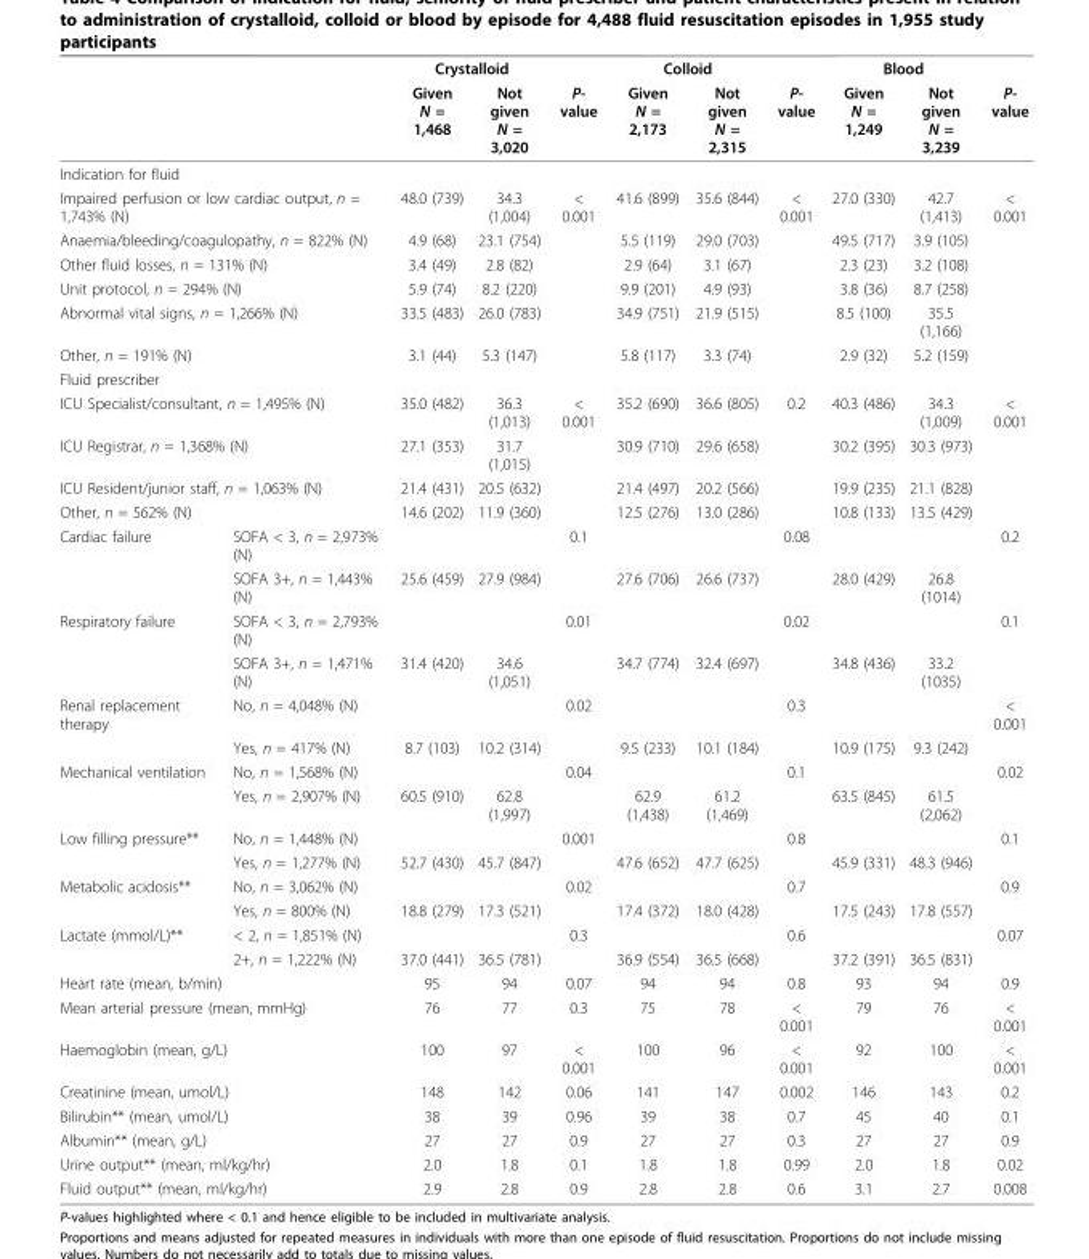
<table><thead><tr><td rowspan="2"></td><td rowspan="2"></td><td colspan="2">Crystalloid</td><td rowspan="2">P- value</td><td colspan="2">Colloid</td><td rowspan="2">P- value</td><td colspan="2">Blood</td><td rowspan="2">P- value</td></tr><tr><td>Given N = 1,468</td><td>Not given N = 3,020</td><td>Given N = 2,173</td><td>Not given N = 2,315</td><td>Given N = 1,249</td><td>Not given N = 3,239</td></tr></thead><tbody><tr><td colspan="11">Indication for fluid</td></tr><tr><td colspan="2">Impaired perfusion or low cardiac output, n = 1,743% (N)</td><td>48.0 (739)</td><td>34.3 (1,004)</td><td>&lt; 0.001</td><td>41.6 (899)</td><td>35.6 (844)</td><td>&lt; 0.001</td><td>27.0 (330)</td><td>42.7 (1,413)</td><td>&lt; 0.001</td></tr><tr><td colspan="2">Anaemia/bleeding/coagulopathy, n = 822% (N)</td><td>4.9 (68)</td><td>23.1 (754)</td><td></td><td>5.5 (119)</td><td>29.0 (703)</td><td></td><td>49.5 (717)</td><td>3.9 (105)</td><td></td></tr><tr><td colspan="2">Other fluid losses, n = 131% (N)</td><td>3.4 (49)</td><td>2.8 (82)</td><td></td><td>2.9 (64)</td><td>3.1 (67)</td><td></td><td>2.3 (23)</td><td>3.2 (108)</td><td></td></tr><tr><td colspan="2">Unit protocol, n = 294% (N)</td><td>5.9 (74)</td><td>8.2 (220)</td><td></td><td>9.9 (201)</td><td>4.9 (93)</td><td></td><td>3.8 (36)</td><td>8.7 (258)</td><td></td></tr><tr><td colspan="2">Abnormal vital signs, n = 1,266% (N)</td><td>33.5 (483)</td><td>26.0 (783)</td><td></td><td>34.9 (751)</td><td>21.9 (515)</td><td></td><td>8.5 (100)</td><td>35.5 (1,166)</td><td></td></tr><tr><td colspan="2">Other, n = 191% (N)</td><td>3.1 (44)</td><td>5.3 (147)</td><td></td><td>5.8 (117)</td><td>3.3 (74)</td><td></td><td>2.9 (32)</td><td>5.2 (159)</td><td></td></tr><tr><td colspan="11">Fluid prescriber</td></tr><tr><td colspan="2">ICU Specialist/consultant, n = 1,495% (N)</td><td>35.0 (482)</td><td>36.3 (1,013)</td><td>&lt; 0.001</td><td>35.2 (690)</td><td>36.6 (805)</td><td>0.2</td><td>40.3 (486)</td><td>34.3 (1,009)</td><td>&lt; 0.001</td></tr><tr><td colspan="2">ICU Registrar, n = 1,368% (N)</td><td>27.1 (353)</td><td>31.7 (1,015)</td><td></td><td>30.9 (710)</td><td>29.6 (658)</td><td></td><td>30.2 (395)</td><td>30.3 (973)</td><td></td></tr><tr><td colspan="2">ICU Resident/junior staff, n = 1,063% (N)</td><td>21.4 (431)</td><td>20.5 (632)</td><td></td><td>21.4 (497)</td><td>20.2 (566)</td><td></td><td>19.9 (235)</td><td>21.1 (828)</td><td></td></tr><tr><td colspan="2">Other, n = 562% (N)</td><td>14.6 (202)</td><td>11.9 (360)</td><td></td><td>12.5 (276)</td><td>13.0 (286)</td><td></td><td>10.8 (133)</td><td>13.5 (429)</td><td></td></tr><tr><td rowspan="2">Cardiac failure</td><td>SOFA &lt; 3, n = 2,973% (N)</td><td></td><td></td><td>0.1</td><td></td><td></td><td>0.08</td><td></td><td></td><td>0.2</td></tr><tr><td>SOFA 3+, n = 1,443% (N)</td><td>25.6 (459)</td><td>27.9 (984)</td><td></td><td>27.6 (706)</td><td>26.6 (737)</td><td></td><td>28.0 (429)</td><td>26.8 (1014)</td><td></td></tr><tr><td rowspan="2">Respiratory failure</td><td>SOFA &lt; 3, n = 2,793% (N)</td><td></td><td></td><td>0.01</td><td></td><td></td><td>0.02</td><td></td><td></td><td>0.1</td></tr><tr><td>SOFA 3+, n = 1,471% (N)</td><td>31.4 (420)</td><td>34.6 (1,051)</td><td></td><td>34.7 (774)</td><td>32.4 (697)</td><td></td><td>34.8 (436)</td><td>33.2 (1035)</td><td></td></tr><tr><td rowspan="2">Renal replacement therapy</td><td>No, n = 4,048% (N)</td><td></td><td></td><td>0.02</td><td></td><td></td><td>0.3</td><td></td><td></td><td>&lt; 0.001</td></tr><tr><td>Yes, n = 417% (N)</td><td>8.7 (103)</td><td>10.2 (314)</td><td></td><td>9.5 (233)</td><td>10.1 (184)</td><td></td><td>10.9 (175)</td><td>9.3 (242)</td><td></td></tr><tr><td rowspan="2">Mechanical ventilation</td><td>No, n = 1,568% (N)</td><td></td><td></td><td>0.04</td><td></td><td></td><td>0.1</td><td></td><td></td><td>0.02</td></tr><tr><td>Yes, n = 2,907% (N)</td><td>60.5 (910)</td><td>62.8 (1,997)</td><td></td><td>62.9 (1,438)</td><td>61.2 (1,469)</td><td></td><td>63.5 (845)</td><td>61.5 (2,062)</td><td></td></tr><tr><td rowspan="2">Low filling pressure**</td><td>No, n = 1,448% (N)</td><td></td><td></td><td>0.001</td><td></td><td></td><td>0.8</td><td></td><td></td><td>0.1</td></tr><tr><td>Yes, n = 1,277% (N)</td><td>52.7 (430)</td><td>45.7 (847)</td><td></td><td>47.6 (652)</td><td>47.7 (625)</td><td></td><td>45.9 (331)</td><td>48.3 (946)</td><td></td></tr><tr><td rowspan="2">Metabolic acidosis**</td><td>No, n = 3,062% (N)</td><td></td><td></td><td>0.02</td><td></td><td></td><td>0.7</td><td></td><td></td><td>0.9</td></tr><tr><td>Yes, n = 800% (N)</td><td>18.8 (279)</td><td>17.3 (521)</td><td></td><td>17.4 (372)</td><td>18.0 (428)</td><td></td><td>17.5 (243)</td><td>17.8 (557)</td><td></td></tr><tr><td rowspan="2">Lactate (mmol/L)**</td><td>&lt; 2, n = 1,851% (N)</td><td></td><td></td><td>0.3</td><td></td><td></td><td>0.6</td><td></td><td></td><td>0.07</td></tr><tr><td>2+, n = 1,222% (N)</td><td>37.0 (441)</td><td>36.5 (781)</td><td></td><td>36.9 (554)</td><td>36.5 (668)</td><td></td><td>37.2 (391)</td><td>36.5 (831)</td><td></td></tr><tr><td colspan="2">Heart rate (mean, b/min)</td><td>95</td><td>94</td><td>0.07</td><td>94</td><td>94</td><td>0.8</td><td>93</td><td>94</td><td>0.9</td></tr><tr><td colspan="2">Mean arterial pressure (mean, mmHg)</td><td>76</td><td>77</td><td>0.3</td><td>75</td><td>78</td><td>&lt; 0.001</td><td>79</td><td>76</td><td>&lt; 0.001</td></tr><tr><td colspan="2">Haemoglobin (mean, g/L)</td><td>100</td><td>97</td><td>&lt; 0.001</td><td>100</td><td>96</td><td>&lt; 0.001</td><td>92</td><td>100</td><td>&lt; 0.001</td></tr><tr><td colspan="2">Creatinine (mean, umol/L)</td><td>148</td><td>142</td><td>0.06</td><td>141</td><td>147</td><td>0.002</td><td>146</td><td>143</td><td>0.2</td></tr><tr><td colspan="2">Bilirubin** (mean, umol/L)</td><td>38</td><td>39</td><td>0.96</td><td>39</td><td>38</td><td>0.7</td><td>45</td><td>40</td><td>0.1</td></tr><tr><td colspan="2">Albumin** (mean, g/L)</td><td>27</td><td>27</td><td>0.9</td><td>27</td><td>27</td><td>0.3</td><td>27</td><td>27</td><td>0.9</td></tr><tr><td colspan="2">Urine output** (mean, ml/kg/hr)</td><td>2.0</td><td>1.8</td><td>0.1</td><td>1.8</td><td>1.8</td><td>0.99</td><td>2.0</td><td>1.8</td><td>0.02</td></tr><tr><td colspan="2">Fluid output** (mean, ml/kg/hr)</td><td>2.9</td><td>2.8</td><td>0.9</td><td>2.8</td><td>2.8</td><td>0.6</td><td>3.1</td><td>2.7</td><td>0.008</td></tr></tbody></table>